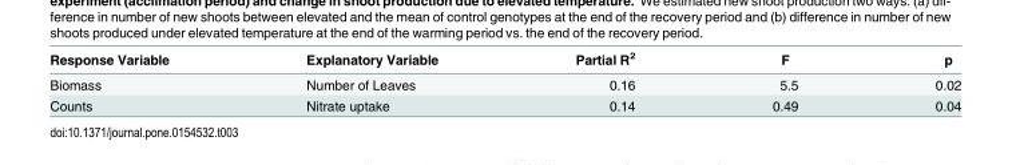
<table><thead><tr><td>Response Variable</td><td>Explanatory Variable</td><td>Partial R<sup>2</sup></td><td>F</td><td>p</td></tr></thead><tbody><tr><td>Biomass</td><td>Number of Leaves</td><td>0.16</td><td>5.5</td><td>0.02</td></tr><tr><td>Counts</td><td>Nitrate uptake</td><td>0.14</td><td>0.49</td><td>0.04</td></tr></tbody></table>